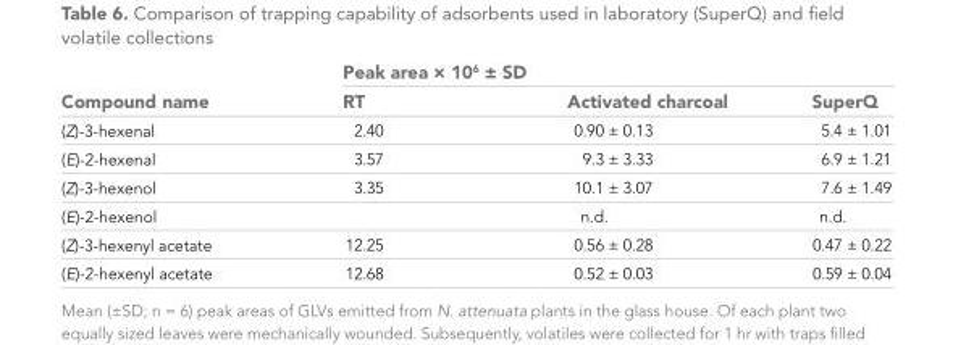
<table><thead><tr><td rowspan="2">Compound name</td><td colspan="3">Peak area × 10<sup>6</sup> ± SD</td></tr><tr><td>RT</td><td>Activated charcoal</td><td>SuperQ</td></tr></thead><tbody><tr><td>(Z)-3-hexenal</td><td>2.40</td><td>0.90 ± 0.13</td><td>5.4 ± 1.01</td></tr><tr><td>(E)-2-hexenal</td><td>3.57</td><td>9.3 ± 3.33</td><td>6.9 ± 1.21</td></tr><tr><td>(Z)-3-hexenol</td><td>3.35</td><td>10.1 ± 3.07</td><td>7.6 ± 1.49</td></tr><tr><td>(E)-2-hexenol</td><td></td><td>n.d.</td><td>n.d.</td></tr><tr><td>(Z)-3-hexenyl acetate</td><td>12.25</td><td>0.56 ± 0.28</td><td>0.47 ± 0.22</td></tr><tr><td>(E)-2-hexenyl acetate</td><td>12.68</td><td>0.52 ± 0.03</td><td>0.59 ± 0.04</td></tr></tbody></table>